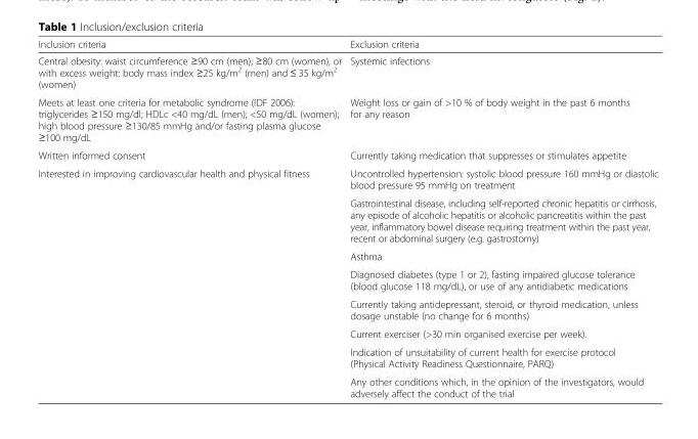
<table><thead><tr><td>Inclusion criteria</td><td>Exclusion criteria</td></tr></thead><tbody><tr><td>Central obesity: waist circumference ≥90 cm (men); ≥80 cm (women), or with excess weight: body mass index ≥25 kg/m<sup>2</sup> (men) and ≤ 35 kg/m<sup>2</sup> (women)</td><td>Systemic infections</td></tr><tr><td>Meets at least one criteria for metabolic syndrome (IDF 2006): triglycerides ≥150 mg/dl; HDLc &lt;40 mg/dL (men); &lt;50 mg/dL (women); high blood pressure ≥130/85 mmHg and/or fasting plasma glucose ≥100 mg/dL</td><td>Weight loss or gain of &gt;10 % of body weight in the past 6 months for any reason</td></tr><tr><td>Written informed consent</td><td>Currently taking medication that suppresses or stimulates appetite</td></tr><tr><td rowspan="8">Interested in improving cardiovascular health and physical fitness</td><td>Uncontrolled hypertension: systolic blood pressure 160 mmHg or diastolic blood pressure 95 mmHg on treatment</td></tr><tr><td>Gastrointestinal disease, including self-reported chronic hepatitis or cirrhosis, any episode of alcoholic hepatitis or alcoholic pancreatitis within the past year, inflammatory bowel disease requiring treatment within the past year, recent or abdominal surgery (e.g. gastrostomy)</td></tr><tr><td>Asthma</td></tr><tr><td>Diagnosed diabetes (type 1 or 2), fasting impaired glucose tolerance (blood glucose 118 mg/dL), or use of any antidiabetic medications</td></tr><tr><td>Currently taking antidepressant, steroid, or thyroid medication, unless dosage unstable (no change for 6 months)</td></tr><tr><td>Current exerciser (&gt;30 min organised exercise per week).</td></tr><tr><td>Indication of unsuitability of current health for exercise protocol (Physical Activity Readiness Questionnaire, PARQ)</td></tr><tr><td>Any other conditions which, in the opinion of the investigators, would adversely affect the conduct of the trial</td></tr></tbody></table>